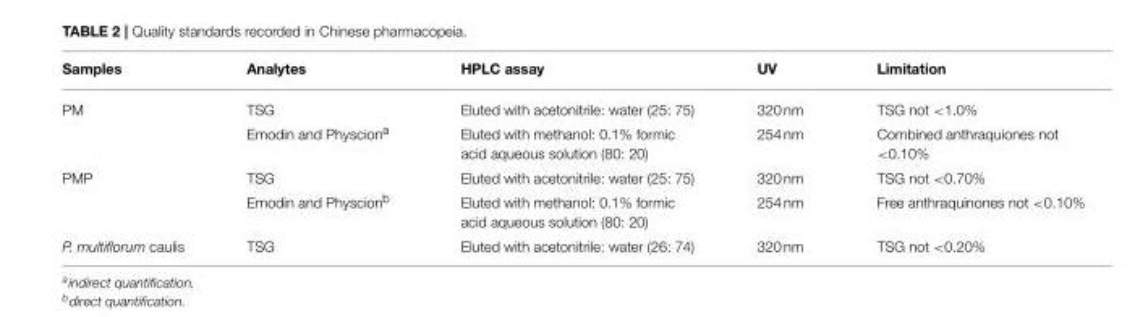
<table><thead><tr><td>Samples</td><td>Analytes</td><td>HPLC assay</td><td>UV</td><td>Limitation</td></tr></thead><tbody><tr><td rowspan="2">PM</td><td>TSG</td><td>Eluted with acetonitrile: water (25: 75)</td><td>320 nm</td><td>TSG not &lt;1.0%</td></tr><tr><td>Emodin and Physcion<sup>a</sup></td><td>Eluted with methanol: 0.1% formic acid aqueous solution (80: 20)</td><td>254 nm</td><td>Combined anthraquiones not &lt;0.10%</td></tr><tr><td rowspan="2">PMP</td><td>TSG</td><td>Eluted with acetonitrile: water (25: 75)</td><td>320 nm</td><td>TSG not &lt;0.70%</td></tr><tr><td>Emodin and Physcion<sup>b</sup></td><td>Eluted with methanol: 0.1% formic acid aqueous solution (80: 20)</td><td>254 nm</td><td>Free anthraquinones not &lt;0.10%</td></tr><tr><td>P. multiflorum caulis</td><td>TSG</td><td>Eluted with acetonitrile: water (26: 74)</td><td>320 nm</td><td>TSG not &lt;0.20%</td></tr></tbody></table>